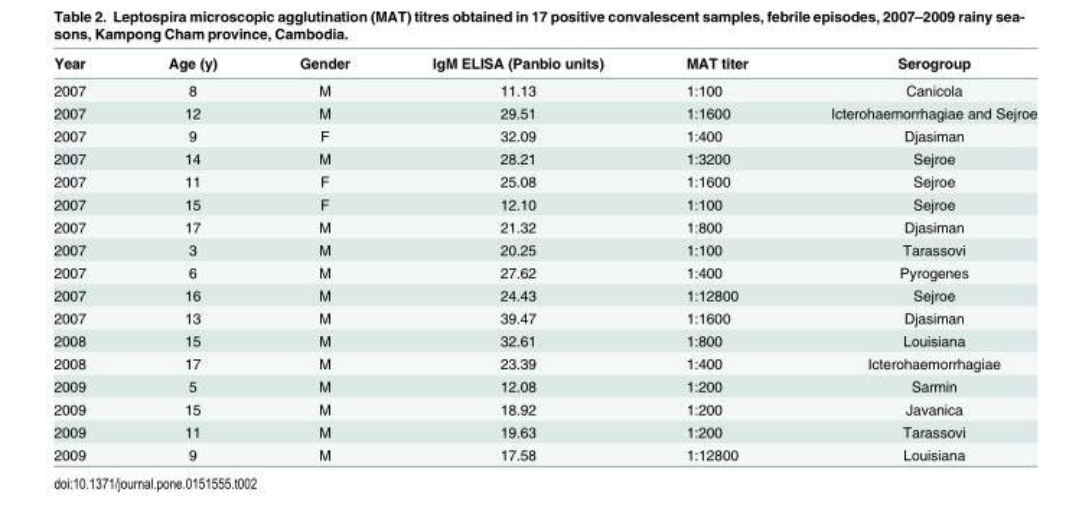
<table><thead><tr><td>Year</td><td>Age (y)</td><td>Gender</td><td>IgM ELISA (Panbio units)</td><td>MAT titer</td><td>Serogroup</td></tr></thead><tbody><tr><td>2007</td><td>8</td><td>M</td><td>11.13</td><td>1:100</td><td>Canicola</td></tr><tr><td>2007</td><td>12</td><td>M</td><td>29.51</td><td>1:1600</td><td>Icterohaemorrhagiae and Sejroe</td></tr><tr><td>2007</td><td>9</td><td>F</td><td>32.09</td><td>1:400</td><td>Djasiman</td></tr><tr><td>2007</td><td>14</td><td>M</td><td>28.21</td><td>1:3200</td><td>Sejroe</td></tr><tr><td>2007</td><td>11</td><td>F</td><td>25.08</td><td>1:1600</td><td>Sejroe</td></tr><tr><td>2007</td><td>15</td><td>F</td><td>12.10</td><td>1:100</td><td>Sejroe</td></tr><tr><td>2007</td><td>17</td><td>M</td><td>21.32</td><td>1:800</td><td>Djasiman</td></tr><tr><td>2007</td><td>3</td><td>M</td><td>20.25</td><td>1:100</td><td>Tarassovi</td></tr><tr><td>2007</td><td>6</td><td>M</td><td>27.62</td><td>1:400</td><td>Pyrogenes</td></tr><tr><td>2007</td><td>16</td><td>M</td><td>24.43</td><td>1:12800</td><td>Sejroe</td></tr><tr><td>2007</td><td>13</td><td>M</td><td>39.47</td><td>1:1600</td><td>Djasiman</td></tr><tr><td>2008</td><td>15</td><td>M</td><td>32.61</td><td>1:800</td><td>Louisiana</td></tr><tr><td>2008</td><td>17</td><td>M</td><td>23.39</td><td>1:400</td><td>Icterohaemorrhagiae</td></tr><tr><td>2009</td><td>5</td><td>M</td><td>12.08</td><td>1:200</td><td>Sarmin</td></tr><tr><td>2009</td><td>15</td><td>M</td><td>18.92</td><td>1:200</td><td>Javanica</td></tr><tr><td>2009</td><td>11</td><td>M</td><td>19.63</td><td>1:200</td><td>Tarassovi</td></tr><tr><td>2009</td><td>9</td><td>M</td><td>17.58</td><td>1:12800</td><td>Louisiana</td></tr></tbody></table>